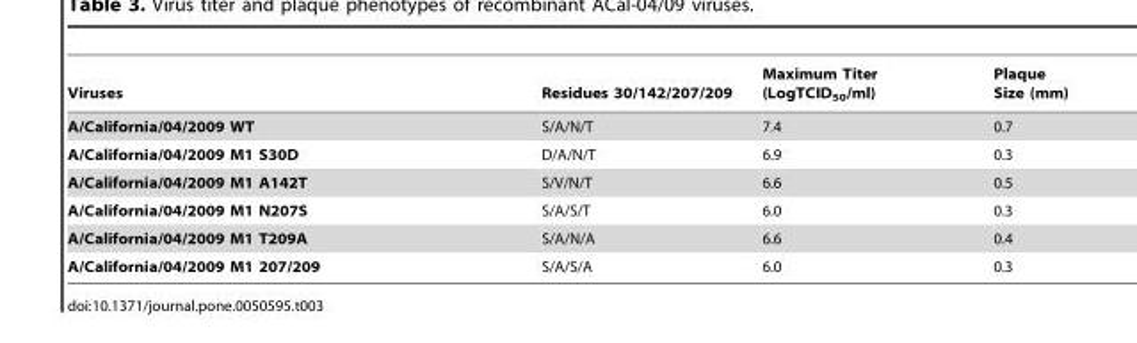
<table><thead><tr><td>Viruses</td><td>Residues 30/142/207/209</td><td>Maximum Titer (LogTCID<sub>50</sub>/ml)</td><td>Plaque Size (mm)</td></tr></thead><tbody><tr><td>A/California/04/2009 WT</td><td>S/A/N/T</td><td>7.4</td><td>0.7</td></tr><tr><td>A/California/04/2009 M1 S30D</td><td>D/A/N/T</td><td>6.9</td><td>0.3</td></tr><tr><td>A/California/04/2009 M1 A142T</td><td>S/V/N/T</td><td>6.6</td><td>0.5</td></tr><tr><td>A/California/04/2009 M1 N207S</td><td>S/A/S/T</td><td>6.0</td><td>0.3</td></tr><tr><td>A/California/04/2009 M1 T209A</td><td>S/A/N/A</td><td>6.6</td><td>0.4</td></tr><tr><td>A/California/04/2009 M1 207/209</td><td>S/A/S/A</td><td>6.0</td><td>0.3</td></tr></tbody></table>